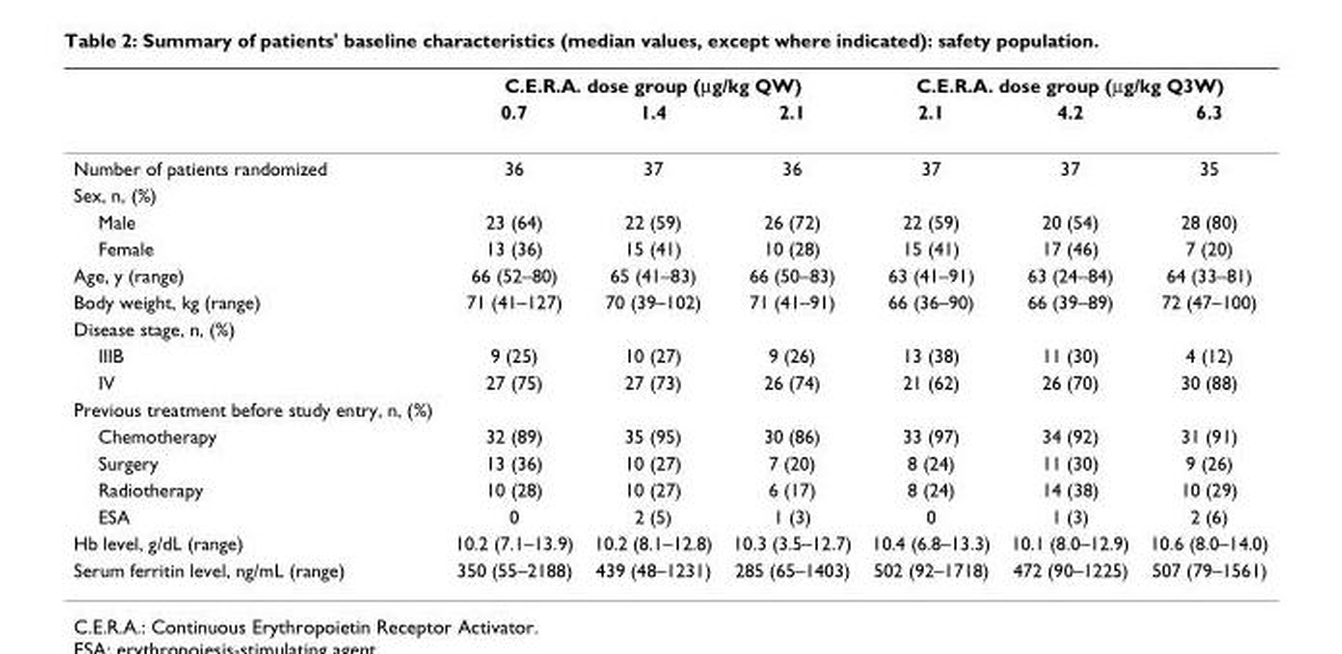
<table><thead><tr><td rowspan="2"></td><td colspan="3">C.E.R.A. dose group (μg/kg QW)</td><td colspan="3">C.E.R.A. dose group (μg/kg Q3W)</td></tr><tr><td>0.7</td><td>1.4</td><td>2.1</td><td>2.1</td><td>4.2</td><td>6.3</td></tr></thead><tbody><tr><td>Number of patients randomized</td><td>36</td><td>37</td><td>36</td><td>37</td><td>37</td><td>35</td></tr><tr><td colspan="7">Sex, n, (%)</td></tr><tr><td>Male</td><td>23 (64)</td><td>22 (59)</td><td>26 (72)</td><td>22 (59)</td><td>20 (54)</td><td>28 (80)</td></tr><tr><td>Female</td><td>13 (36)</td><td>15 (41)</td><td>10 (28)</td><td>15 (41)</td><td>17 (46)</td><td>7 (20)</td></tr><tr><td>Age, y (range)</td><td>66 (52–80)</td><td>65 (41–83)</td><td>66 (50–83)</td><td>63 (41–91)</td><td>63 (24–84)</td><td>64 (33–81)</td></tr><tr><td>Body weight, kg (range)</td><td>71 (41–127)</td><td>70 (39–102)</td><td>71 (41–91)</td><td>66 (36–90)</td><td>66 (39–89)</td><td>72 (47–100)</td></tr><tr><td colspan="7">Disease stage, n, (%)</td></tr><tr><td>IIIB</td><td>9 (25)</td><td>10 (27)</td><td>9 (26)</td><td>13 (38)</td><td>11 (30)</td><td>4 (12)</td></tr><tr><td>IV</td><td>27 (75)</td><td>27 (73)</td><td>26 (74)</td><td>21 (62)</td><td>26 (70)</td><td>30 (88)</td></tr><tr><td colspan="7">Previous treatment before study entry, n, (%)</td></tr><tr><td>Chemotherapy</td><td>32 (89)</td><td>35 (95)</td><td>30 (86)</td><td>33 (97)</td><td>34 (92)</td><td>31 (91)</td></tr><tr><td>Surgery</td><td>13 (36)</td><td>10 (27)</td><td>7 (20)</td><td>8 (24)</td><td>11 (30)</td><td>9 (26)</td></tr><tr><td>Radiotherapy</td><td>10 (28)</td><td>10 (27)</td><td>6 (17)</td><td>8 (24)</td><td>14 (38)</td><td>10 (29)</td></tr><tr><td>ESA</td><td>0</td><td>2 (5)</td><td>1 (3)</td><td>0</td><td>1 (3)</td><td>2 (6)</td></tr><tr><td>Hb level, g/dL (range)</td><td>10.2 (7.1–13.9)</td><td>10.2 (8.1–12.8)</td><td>10.3 (3.5–12.7)</td><td>10.4 (6.8–13.3)</td><td>10.1 (8.0–12.9)</td><td>10.6 (8.0–14.0)</td></tr><tr><td>Serum ferritin level, ng/mL (range)</td><td>350 (55–2188)</td><td>439 (48–1231)</td><td>285 (65–1403)</td><td>502 (92–1718)</td><td>472 (90–1225)</td><td>507 (79–1561)</td></tr></tbody></table>